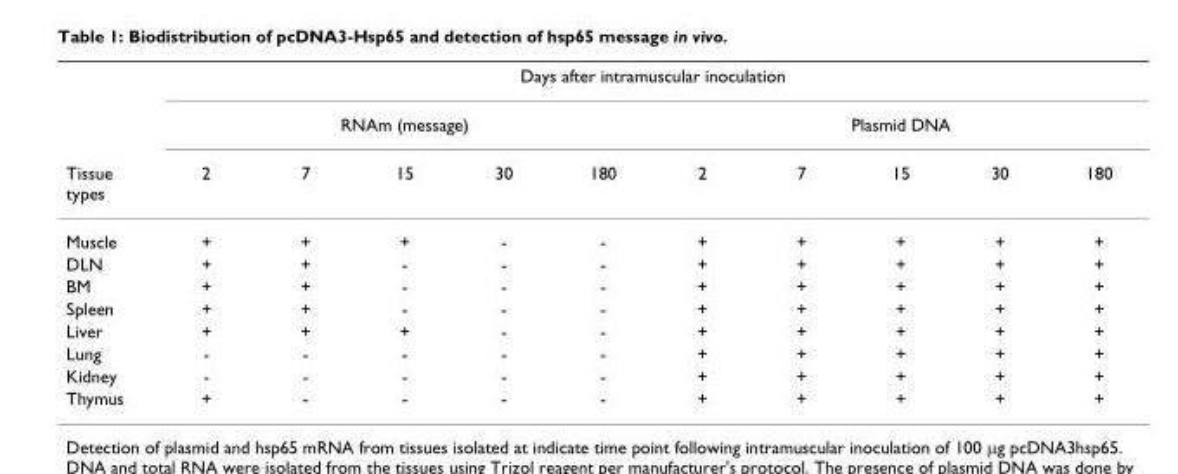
<table><thead><tr><td rowspan="3">Tissue types</td><td colspan="10">Days after intramuscular inoculation</td></tr><tr><td colspan="5">RNAm (message)</td><td colspan="5">Plasmid DNA</td></tr><tr><td>2</td><td>7</td><td>15</td><td>30</td><td>180</td><td>2</td><td>7</td><td>15</td><td>30</td><td>180</td></tr></thead><tbody><tr><td>Muscle</td><td>+</td><td>+</td><td>+</td><td>-</td><td>-</td><td>+</td><td>+</td><td>+</td><td>+</td><td>+</td></tr><tr><td>DLN</td><td>+</td><td>+</td><td>-</td><td>-</td><td>-</td><td>+</td><td>+</td><td>+</td><td>+</td><td>+</td></tr><tr><td>BM</td><td>+</td><td>+</td><td>-</td><td>-</td><td>-</td><td>+</td><td>+</td><td>+</td><td>+</td><td>+</td></tr><tr><td>Spleen</td><td>+</td><td>+</td><td>-</td><td>-</td><td>-</td><td>+</td><td>+</td><td>+</td><td>+</td><td>+</td></tr><tr><td>Liver</td><td>+</td><td>+</td><td>+</td><td>-</td><td>-</td><td>+</td><td>+</td><td>+</td><td>+</td><td>+</td></tr><tr><td>Lung</td><td>-</td><td>-</td><td>-</td><td>-</td><td>-</td><td>+</td><td>+</td><td>+</td><td>+</td><td>+</td></tr><tr><td>Kidney</td><td>-</td><td>-</td><td>-</td><td>-</td><td>-</td><td>+</td><td>+</td><td>+</td><td>+</td><td>+</td></tr><tr><td>Thymus</td><td>+</td><td>-</td><td>-</td><td>-</td><td>-</td><td>+</td><td>+</td><td>+</td><td>+</td><td>+</td></tr></tbody></table>